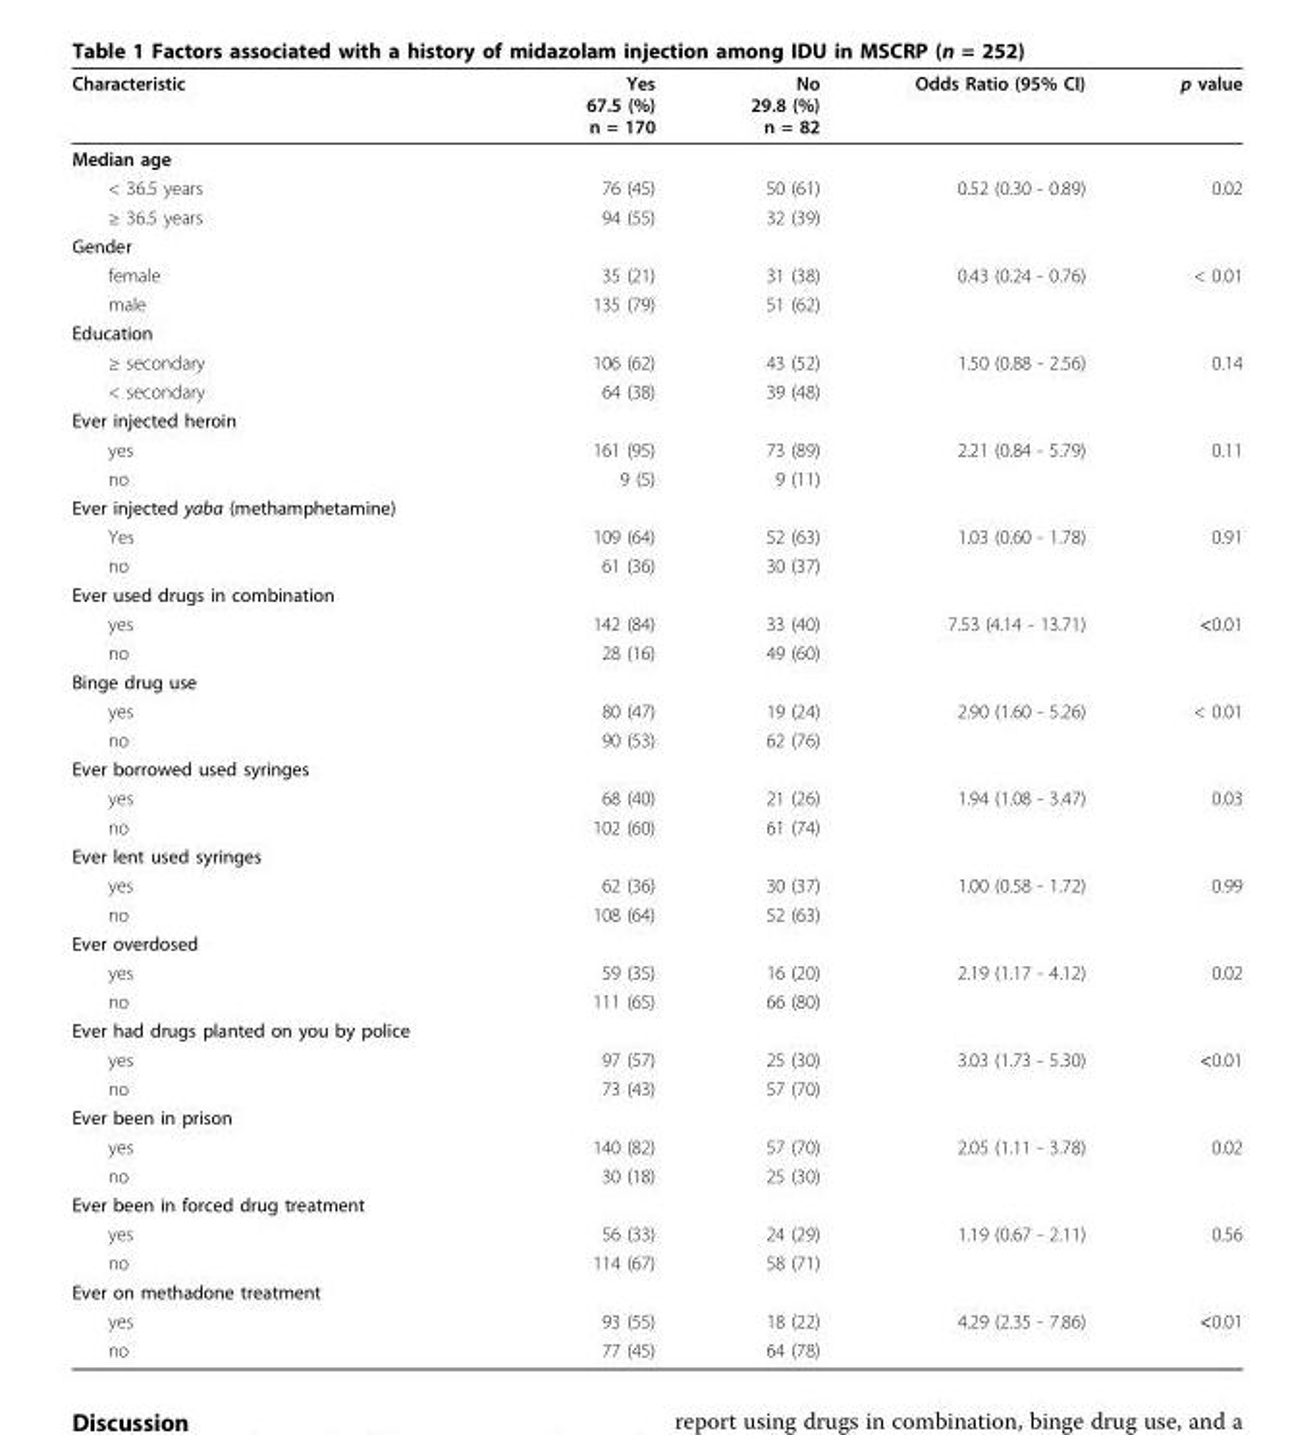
<table><thead><tr><td>Characteristic</td><td>Yes 67.5 (%) n = 170</td><td>No 29.8 (%) n = 82</td><td>Odds Ratio (95% CI)</td><td>p value</td></tr></thead><tbody><tr><td colspan="5">Median age</td></tr><tr><td>&lt; 36.5 years</td><td>76 (45)</td><td>50 (61)</td><td>0.52 (0.30 - 0.89)</td><td>0.02</td></tr><tr><td>≥ 36.5 years</td><td>94 (55)</td><td>32 (39)</td><td></td><td></td></tr><tr><td colspan="5">Gender</td></tr><tr><td>female</td><td>35 (21)</td><td>31 (38)</td><td>0.43 (0.24 - 0.76)</td><td>&lt; 0.01</td></tr><tr><td>male</td><td>135 (79)</td><td>51 (62)</td><td></td><td></td></tr><tr><td colspan="5">Education</td></tr><tr><td>≥ secondary</td><td>106 (62)</td><td>43 (52)</td><td>1.50 (0.88 - 2.56)</td><td>0.14</td></tr><tr><td>&lt; secondary</td><td>64 (38)</td><td>39 (48)</td><td></td><td></td></tr><tr><td colspan="5">Ever injected heroin</td></tr><tr><td>yes</td><td>161 (95)</td><td>73 (89)</td><td>2.21 (0.84 - 5.79)</td><td>0.11</td></tr><tr><td>no</td><td>9 (5)</td><td>9 (11)</td><td></td><td></td></tr><tr><td colspan="5">Ever injected yaba (methamphetamine)</td></tr><tr><td>Yes</td><td>109 (64)</td><td>52 (63)</td><td>1.03 (0.60 - 1.78)</td><td>0.91</td></tr><tr><td>no</td><td>61 (36)</td><td>30 (37)</td><td></td><td></td></tr><tr><td colspan="5">Ever used drugs in combination</td></tr><tr><td>yes</td><td>142 (84)</td><td>33 (40)</td><td>7.53 (4.14 - 13.71)</td><td>&lt;0.01</td></tr><tr><td>no</td><td>28 (16)</td><td>49 (60)</td><td></td><td></td></tr><tr><td colspan="5">Binge drug use</td></tr><tr><td>yes</td><td>80 (47)</td><td>19 (24)</td><td>2.90 (1.60 - 5.26)</td><td>&lt; 0.01</td></tr><tr><td>no</td><td>90 (53)</td><td>62 (76)</td><td></td><td></td></tr><tr><td colspan="5">Ever borrowed used syringes</td></tr><tr><td>yes</td><td>68 (40)</td><td>21 (26)</td><td>1.94 (1.08 - 3.47)</td><td>0.03</td></tr><tr><td>no</td><td>102 (60)</td><td>61 (74)</td><td></td><td></td></tr><tr><td colspan="5">Ever lent used syringes</td></tr><tr><td>yes</td><td>62 (36)</td><td>30 (37)</td><td>1.00 (0.58 - 1.72)</td><td>0.99</td></tr><tr><td>no</td><td>108 (64)</td><td>52 (63)</td><td></td><td></td></tr><tr><td colspan="5">Ever overdosed</td></tr><tr><td>yes</td><td>59 (35)</td><td>16 (20)</td><td>2.19 (1.17 - 4.12)</td><td>0.02</td></tr><tr><td>no</td><td>111 (65)</td><td>66 (80)</td><td></td><td></td></tr><tr><td colspan="5">Ever had drugs planted on you by police</td></tr><tr><td>yes</td><td>97 (57)</td><td>25 (30)</td><td>3.03 (1.73 - 5.30)</td><td>&lt;0.01</td></tr><tr><td>no</td><td>73 (43)</td><td>57 (70)</td><td></td><td></td></tr><tr><td colspan="5">Ever been in prison</td></tr><tr><td>yes</td><td>140 (82)</td><td>57 (70)</td><td>2.05 (1.11 - 3.78)</td><td>0.02</td></tr><tr><td>no</td><td>30 (18)</td><td>25 (30)</td><td></td><td></td></tr><tr><td colspan="5">Ever been in forced drug treatment</td></tr><tr><td>yes</td><td>56 (33)</td><td>24 (29)</td><td>1.19 (0.67 - 2.11)</td><td>0.56</td></tr><tr><td>no</td><td>114 (67)</td><td>58 (71)</td><td></td><td></td></tr><tr><td colspan="5">Ever on methadone treatment</td></tr><tr><td>yes</td><td>93 (55)</td><td>18 (22)</td><td>4.29 (2.35 - 7.86)</td><td>&lt;0.01</td></tr><tr><td>no</td><td>77 (45)</td><td>64 (78)</td><td></td><td></td></tr></tbody></table>